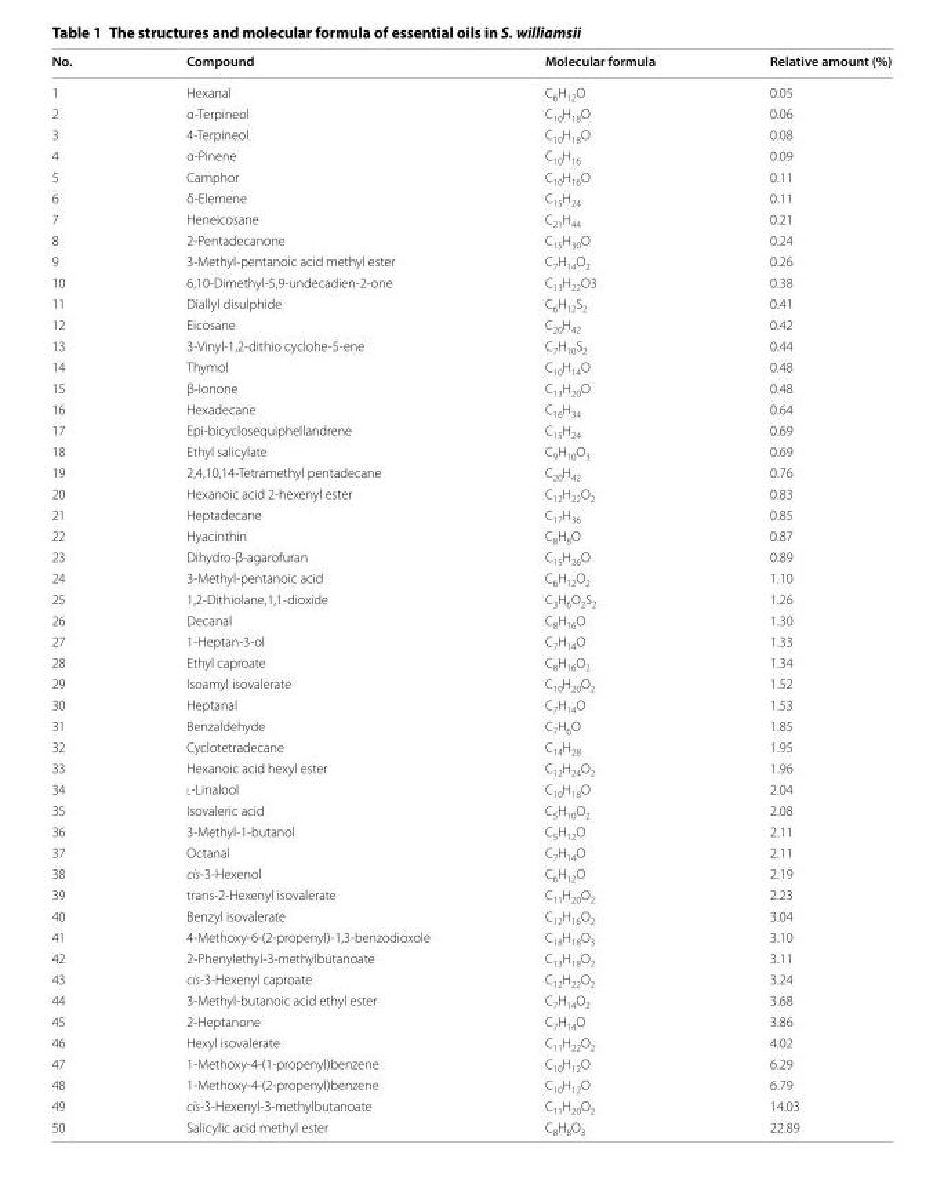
<table><thead><tr><td>No.</td><td>Compound</td><td>Molecular formula</td><td>Relative amount (%)</td></tr></thead><tbody><tr><td>1</td><td>Hexanal</td><td>C<sub>6</sub>H<sub>12</sub>O</td><td>0.05</td></tr><tr><td>2</td><td>α‑Terpineol</td><td>C<sub>10</sub>H<sub>18</sub>O</td><td>0.06</td></tr><tr><td>3</td><td>4‑Terpineol</td><td>C<sub>10</sub>H<sub>18</sub>O</td><td>0.08</td></tr><tr><td>4</td><td>α‑Pinene</td><td>C<sub>10</sub>H<sub>16</sub></td><td>0.09</td></tr><tr><td>5</td><td>Camphor</td><td>C<sub>10</sub>H<sub>16</sub>O</td><td>0.11</td></tr><tr><td>6</td><td>δ‑Elemene</td><td>C<sub>15</sub>H<sub>24</sub></td><td>0.11</td></tr><tr><td>7</td><td>Heneicosane</td><td>C<sub>21</sub>H<sub>44</sub></td><td>0.21</td></tr><tr><td>8</td><td>2‑Pentadecanone</td><td>C<sub>15</sub>H<sub>30</sub>O</td><td>0.24</td></tr><tr><td>9</td><td>3‑Methyl‑pentanoic acid methyl ester</td><td>C<sub>7</sub>H<sub>14</sub>O<sub>2</sub></td><td>0.26</td></tr><tr><td>10</td><td>6,10‑Dimethyl‑5,9‑undecadien‑2‑one</td><td>C<sub>13</sub>H<sub>22</sub>O3</td><td>0.38</td></tr><tr><td>11</td><td>Diallyl disulphide</td><td>C<sub>6</sub>H<sub>12</sub>S<sub>2</sub></td><td>0.41</td></tr><tr><td>12</td><td>Eicosane</td><td>C<sub>20</sub>H<sub>42</sub></td><td>0.42</td></tr><tr><td>13</td><td>3‑Vinyl‑1,2‑dithio cyclohe‑5‑ene</td><td>C<sub>7</sub>H<sub>10</sub>S<sub>2</sub></td><td>0.44</td></tr><tr><td>14</td><td>Thymol</td><td>C<sub>10</sub>H<sub>14</sub>O</td><td>0.48</td></tr><tr><td>15</td><td>β‑Ionone</td><td>C<sub>13</sub>H<sub>20</sub>O</td><td>0.48</td></tr><tr><td>16</td><td>Hexadecane</td><td>C<sub>16</sub>H<sub>34</sub></td><td>0.64</td></tr><tr><td>17</td><td>Epi‑bicyclosequiphellandrene</td><td>C<sub>15</sub>H<sub>24</sub></td><td>0.69</td></tr><tr><td>18</td><td>Ethyl salicylate</td><td>C<sub>9</sub>H<sub>10</sub>O<sub>3</sub></td><td>0.69</td></tr><tr><td>19</td><td>2,4,10,14‑Tetramethyl pentadecane</td><td>C<sub>20</sub>H<sub>42</sub></td><td>0.76</td></tr><tr><td>20</td><td>Hexanoic acid 2‑hexenyl ester</td><td>C<sub>12</sub>H<sub>22</sub>O<sub>2</sub></td><td>0.83</td></tr><tr><td>21</td><td>Heptadecane</td><td>C<sub>17</sub>H<sub>36</sub></td><td>0.85</td></tr><tr><td>22</td><td>Hyacinthin</td><td>C<sub>8</sub>H<sub>8</sub>O</td><td>0.87</td></tr><tr><td>23</td><td>Dihydro‑β‑agarofuran</td><td>C<sub>15</sub>H<sub>26</sub>O</td><td>0.89</td></tr><tr><td>24</td><td>3‑Methyl‑pentanoic acid</td><td>C<sub>6</sub>H<sub>12</sub>O<sub>2</sub></td><td>1.10</td></tr><tr><td>25</td><td>1,2‑Dithiolane,1,1‑dioxide</td><td>C<sub>3</sub>H<sub>6</sub>O<sub>2</sub>S<sub>2</sub></td><td>1.26</td></tr><tr><td>26</td><td>Decanal</td><td>C<sub>8</sub>H<sub>16</sub>O</td><td>1.30</td></tr><tr><td>27</td><td>1‑Heptan‑3‑ol</td><td>C<sub>7</sub>H<sub>14</sub>O</td><td>1.33</td></tr><tr><td>28</td><td>Ethyl caproate</td><td>C<sub>8</sub>H<sub>16</sub>O<sub>2</sub></td><td>1.34</td></tr><tr><td>29</td><td>Isoamyl isovalerate</td><td>C<sub>10</sub>H<sub>20</sub>O<sub>2</sub></td><td>1.52</td></tr><tr><td>30</td><td>Heptanal</td><td>C<sub>7</sub>H<sub>14</sub>O</td><td>1.53</td></tr><tr><td>31</td><td>Benzaldehyde</td><td>C<sub>7</sub>H<sub>6</sub>O</td><td>1.85</td></tr><tr><td>32</td><td>Cyclotetradecane</td><td>C<sub>14</sub>H<sub>28</sub></td><td>1.95</td></tr><tr><td>33</td><td>Hexanoic acid hexyl ester</td><td>C<sub>12</sub>H<sub>24</sub>O<sub>2</sub></td><td>1.96</td></tr><tr><td>34</td><td>l‑Linalool</td><td>C<sub>10</sub>H<sub>18</sub>O</td><td>2.04</td></tr><tr><td>35</td><td>Isovaleric acid</td><td>C<sub>5</sub>H<sub>10</sub>O<sub>2</sub></td><td>2.08</td></tr><tr><td>36</td><td>3‑Methyl‑1‑butanol</td><td>C<sub>5</sub>H<sub>12</sub>O</td><td>2.11</td></tr><tr><td>37</td><td>Octanal</td><td>C<sub>7</sub>H<sub>14</sub>O</td><td>2.11</td></tr><tr><td>38</td><td>cis‑3‑Hexenol</td><td>C<sub>6</sub>H<sub>12</sub>O</td><td>2.19</td></tr><tr><td>39</td><td>trans‑2‑Hexenyl isovalerate</td><td>C<sub>11</sub>H<sub>20</sub>O<sub>2</sub></td><td>2.23</td></tr><tr><td>40</td><td>Benzyl isovalerate</td><td>C<sub>12</sub>H<sub>16</sub>O<sub>2</sub></td><td>3.04</td></tr><tr><td>41</td><td>4‑Methoxy‑6‑(2‑propenyl)‑1,3‑benzodioxole</td><td>C<sub>18</sub>H<sub>18</sub>O<sub>3</sub></td><td>3.10</td></tr><tr><td>42</td><td>2‑Phenylethyl‑3‑methylbutanoate</td><td>C<sub>13</sub>H<sub>18</sub>O<sub>2</sub></td><td>3.11</td></tr><tr><td>43</td><td>cis‑3‑Hexenyl caproate</td><td>C<sub>12</sub>H<sub>22</sub>O<sub>2</sub></td><td>3.24</td></tr><tr><td>44</td><td>3‑Methyl‑butanoic acid ethyl ester</td><td>C<sub>7</sub>H<sub>14</sub>O<sub>2</sub></td><td>3.68</td></tr><tr><td>45</td><td>2‑Heptanone</td><td>C<sub>7</sub>H<sub>14</sub>O</td><td>3.86</td></tr><tr><td>46</td><td>Hexyl isovalerate</td><td>C<sub>11</sub>H<sub>22</sub>O<sub>2</sub></td><td>4.02</td></tr><tr><td>47</td><td>1‑Methoxy‑4‑(1‑propenyl)benzene</td><td>C<sub>10</sub>H<sub>12</sub>O</td><td>6.29</td></tr><tr><td>48</td><td>1‑Methoxy‑4‑(2‑propenyl)benzene</td><td>C<sub>10</sub>H<sub>12</sub>O</td><td>6.79</td></tr><tr><td>49</td><td>cis‑3‑Hexenyl‑3‑methylbutanoate</td><td>C<sub>11</sub>H<sub>20</sub>O<sub>2</sub></td><td>14.03</td></tr><tr><td>50</td><td>Salicylic acid methyl ester</td><td>C<sub>8</sub>H<sub>8</sub>O<sub>3</sub></td><td>22.89</td></tr></tbody></table>